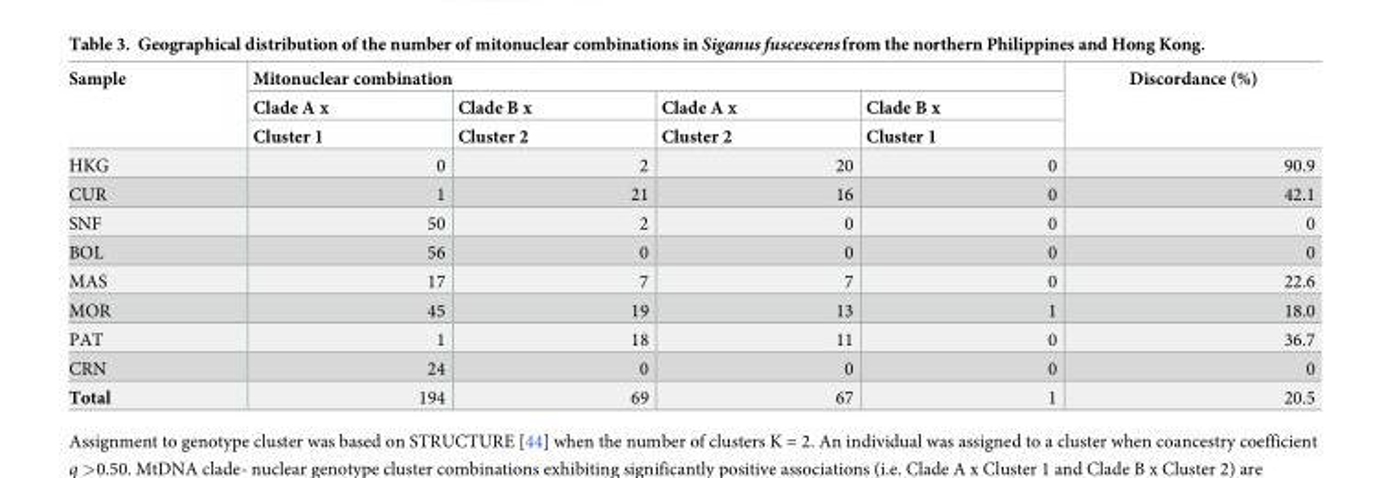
<table><thead><tr><td rowspan="3">Sample</td><td colspan="4">Mitonuclear combination</td><td rowspan="3">Discordance (%)</td></tr><tr><td rowspan="2">Clade A x Cluster 1</td><td rowspan="2">Clade B x Cluster 2</td><td rowspan="2">Clade A x Cluster 2</td><td rowspan="2">Clade B x Cluster 1</td></tr><tr></tr></thead><tbody><tr><td>HKG</td><td>0</td><td>2</td><td>20</td><td>0</td><td>90.9</td></tr><tr><td>CUR</td><td>1</td><td>21</td><td>16</td><td>0</td><td>42.1</td></tr><tr><td>SNF</td><td>50</td><td>2</td><td>0</td><td>0</td><td>0</td></tr><tr><td>BOL</td><td>56</td><td>0</td><td>0</td><td>0</td><td>0</td></tr><tr><td>MAS</td><td>17</td><td>7</td><td>7</td><td>0</td><td>22.6</td></tr><tr><td>MOR</td><td>45</td><td>19</td><td>13</td><td>1</td><td>18.0</td></tr><tr><td>PAT</td><td>1</td><td>18</td><td>11</td><td>0</td><td>36.7</td></tr><tr><td>CRN</td><td>24</td><td>0</td><td>0</td><td>0</td><td>0</td></tr><tr><td>Total</td><td>194</td><td>69</td><td>67</td><td>1</td><td>20.5</td></tr></tbody></table>